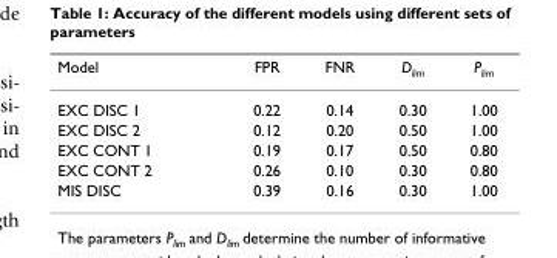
<table><thead><tr><td>Model</td><td>FPR</td><td>FNR</td><td>D<sub>lim</sub></td><td>P<sub>lim</sub></td></tr></thead><tbody><tr><td>EXC DISC 1</td><td>0.22</td><td>0.14</td><td>0.30</td><td>1.00</td></tr><tr><td>EXC DISC 2</td><td>0.12</td><td>0.20</td><td>0.50</td><td>1.00</td></tr><tr><td>EXC CONT 1</td><td>0.19</td><td>0.17</td><td>0.50</td><td>0.80</td></tr><tr><td>EXC CONT 2</td><td>0.26</td><td>0.10</td><td>0.30</td><td>0.80</td></tr><tr><td>MIS DISC</td><td>0.39</td><td>0.16</td><td>0.30</td><td>1.00</td></tr></tbody></table>